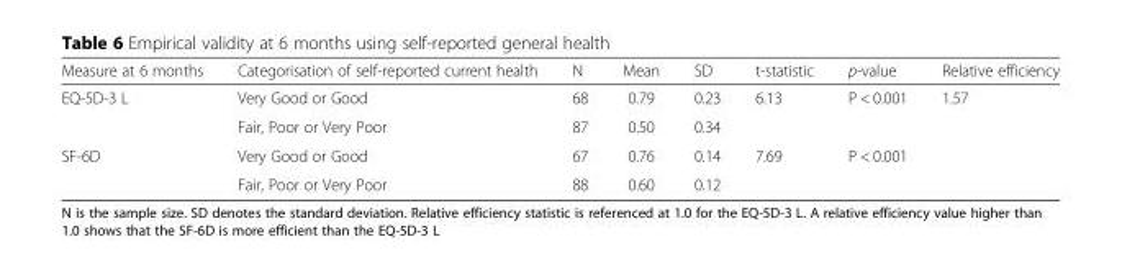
<table><thead><tr><td>Measure at 6 months</td><td>Categorisation of self-reported current health</td><td>N</td><td>Mean</td><td>SD</td><td>t-statistic</td><td>p-value</td><td>Relative efficiency</td></tr></thead><tbody><tr><td rowspan="2">EQ-5D-3 L</td><td>Very Good or Good</td><td>68</td><td>0.79</td><td>0.23</td><td rowspan="2">6.13</td><td rowspan="2">P &lt; 0.001</td><td rowspan="4">1.57</td></tr><tr><td>Fair, Poor or Very Poor</td><td>87</td><td>0.50</td><td>0.34</td></tr><tr><td rowspan="2">SF-6D</td><td>Very Good or Good</td><td>67</td><td>0.76</td><td>0.14</td><td rowspan="2">7.69</td><td rowspan="2">P &lt; 0.001</td></tr><tr><td>Fair, Poor or Very Poor</td><td>88</td><td>0.60</td><td>0.12</td></tr></tbody></table>